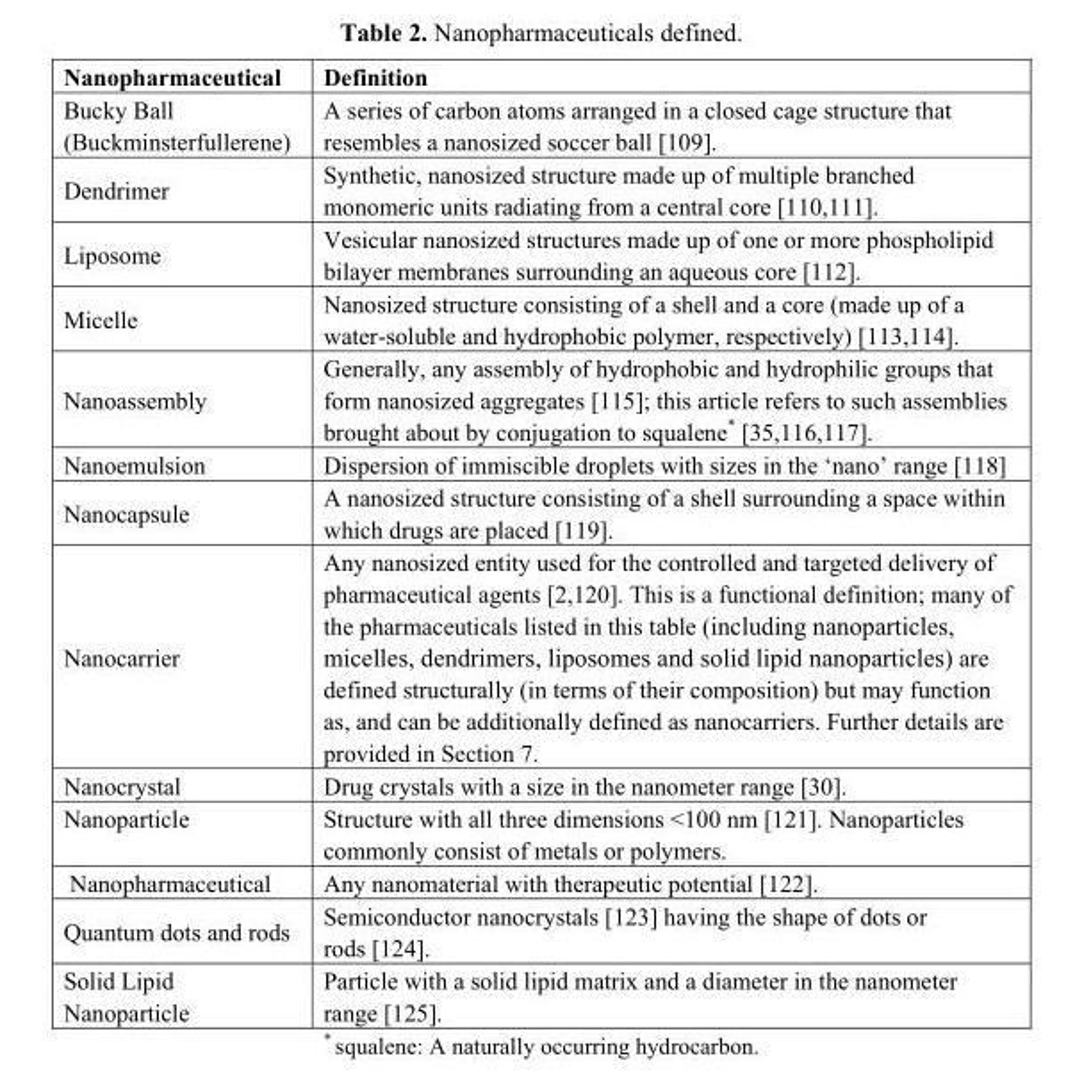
<table><thead><tr><td>Nanopharmaceutical</td><td>Definition</td></tr></thead><tbody><tr><td>Bucky Ball (Buckminsterfullerene)</td><td>A series of carbon atoms arranged in a closed cage structure that resembles a nanosized soccer ball [109].</td></tr><tr><td>Dendrimer</td><td>Synthetic, nanosized structure made up of multiple branched monomeric units radiating from a central core [110,111].</td></tr><tr><td>Liposome</td><td>Vesicular nanosized structures made up of one or more phospholipid bilayer membranes surrounding an aqueous core [112].</td></tr><tr><td>Micelle</td><td>Nanosized structure consisting of a shell and a core (made up of a water-soluble and hydrophobic polymer, respectively) [113,114].</td></tr><tr><td>Nanoassembly</td><td>Generally, any assembly of hydrophobic and hydrophilic groups that form nanosized aggregates [115]; this article refers to such assemblies brought about by conjugation to squalene* [35,116,117].</td></tr><tr><td>Nanoemulsion</td><td>Dispersion of immiscible droplets with sizes in the ‘nano’ range [118]</td></tr><tr><td>Nanocapsule</td><td>A nanosized structure consisting of a shell surrounding a space within which drugs are placed [119].</td></tr><tr><td>Nanocarrier</td><td>Any nanosized entity used for the controlled and targeted delivery of pharmaceutical agents [2,120]. This is a functional definition; many of the pharmaceuticals listed in this table (including nanoparticles, micelles, dendrimers, liposomes and solid lipid nanoparticles) are defined structurally (in terms of their composition) but may function as, and can be additionally defined as nanocarriers. Further details are provided in Section 7.</td></tr><tr><td>Nanocrystal</td><td>Drug crystals with a size in the nanometer range [30].</td></tr><tr><td>Nanoparticle</td><td>Structure with all three dimensions &lt;100 nm [121]. Nanoparticles commonly consist of metals or polymers.</td></tr><tr><td>Nanopharmaceutical</td><td>Any nanomaterial with therapeutic potential [122].</td></tr><tr><td>Quantum dots and rods</td><td>Semiconductor nanocrystals [123] having the shape of dots or rods [124].</td></tr><tr><td>Solid Lipid Nanoparticle</td><td>Particle with a solid lipid matrix and a diameter in the nanometer range [125].</td></tr></tbody></table>